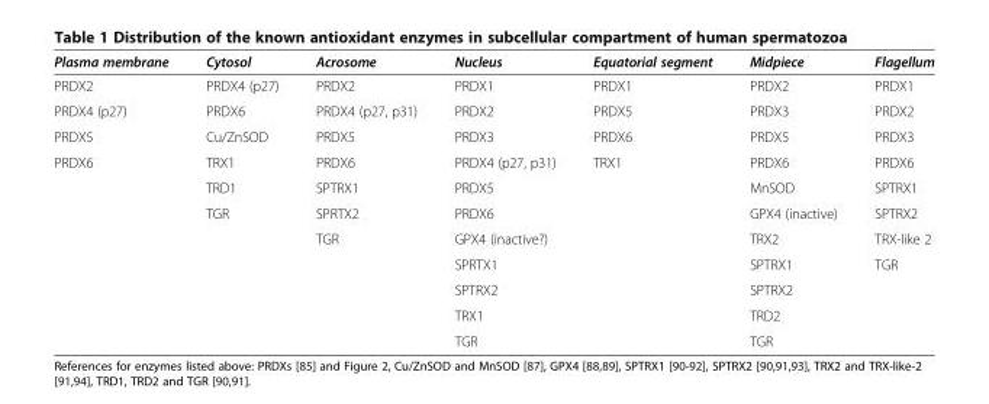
<table><thead><tr><td>Plasma membrane</td><td>Cytosol</td><td>Acrosome</td><td>Nucleus</td><td>Equatorial segment</td><td>Midpiece</td><td>Flagellum</td></tr></thead><tbody><tr><td>PRDX2</td><td>PRDX4 (p27)</td><td>PRDX2</td><td>PRDX1</td><td>PRDX1</td><td>PRDX2</td><td>PRDX1</td></tr><tr><td>PRDX4 (p27)</td><td>PRDX6</td><td>PRDX4 (p27, p31)</td><td>PRDX2</td><td>PRDX5</td><td>PRDX3</td><td>PRDX2</td></tr><tr><td>PRDX5</td><td>Cu/ZnSOD</td><td>PRDX5</td><td>PRDX3</td><td>PRDX6</td><td>PRDX5</td><td>PRDX3</td></tr><tr><td rowspan="8">PRDX6</td><td>TRX1</td><td>PRDX6</td><td>PRDX4 (p27, p31)</td><td>TRX1</td><td>PRDX6</td><td>PRDX6</td></tr><tr><td>TRD1</td><td>SPTRX1</td><td>PRDX5</td><td></td><td>MnSOD</td><td>SPTRX1</td></tr><tr><td>TGR</td><td>SPRTX2</td><td>PRDX6</td><td></td><td>GPX4 (inactive)</td><td>SPTRX2</td></tr><tr><td></td><td>TGR</td><td>GPX4 (inactive?)</td><td></td><td>TRX2</td><td>TRX-like 2</td></tr><tr><td></td><td></td><td>SPRTX1</td><td></td><td>SPTRX1</td><td>TGR</td></tr><tr><td></td><td></td><td>SPTRX2</td><td></td><td>SPTRX2</td><td></td></tr><tr><td></td><td></td><td>TRX1</td><td></td><td>TRD2</td><td></td></tr><tr><td></td><td></td><td>TGR</td><td></td><td>TGR</td><td></td></tr></tbody></table>